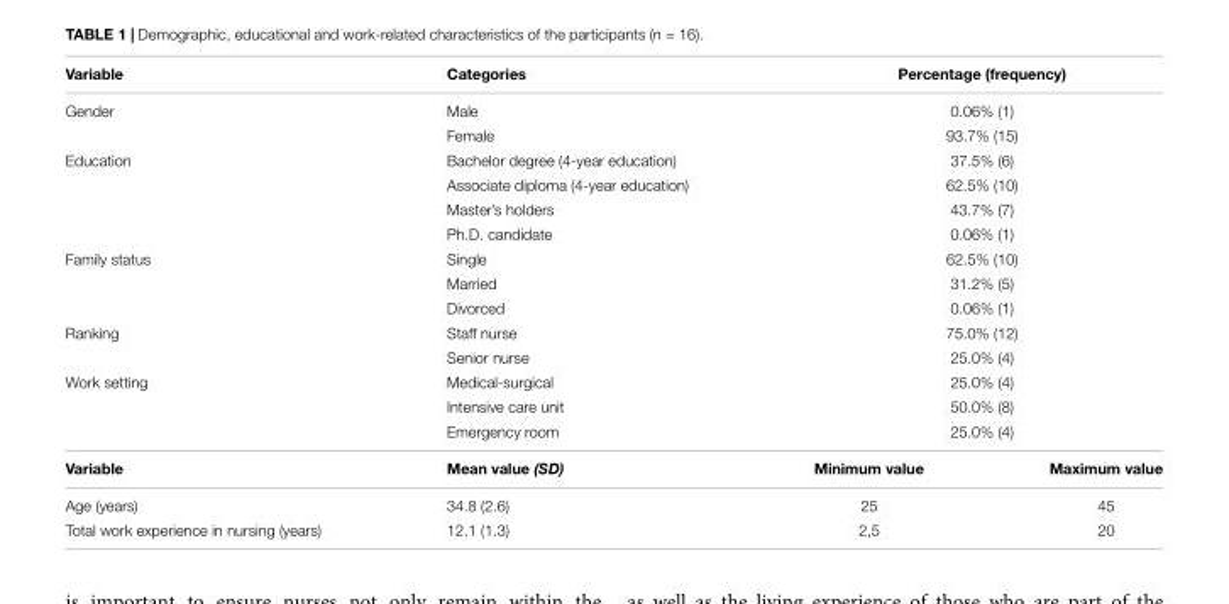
<table><thead><tr><td>Variable</td><td>Categories</td><td colspan="2">Percentage (frequency)</td></tr></thead><tbody><tr><td rowspan="2">Gender</td><td>Male</td><td colspan="2">0.06% (1)</td></tr><tr><td>Female</td><td colspan="2">93.7% (15)</td></tr><tr><td rowspan="4">Education</td><td>Bachelor degree (4-year education)</td><td colspan="2">37.5% (6)</td></tr><tr><td>Associate diploma (4-year education)</td><td colspan="2">62.5% (10)</td></tr><tr><td>Master’s holders</td><td colspan="2">43.7% (7)</td></tr><tr><td>Ph.D. candidate</td><td colspan="2">0.06% (1)</td></tr><tr><td rowspan="3">Family status</td><td>Single</td><td colspan="2">62.5% (10)</td></tr><tr><td>Married</td><td colspan="2">31.2% (5)</td></tr><tr><td>Divorced</td><td colspan="2">0.06% (1)</td></tr><tr><td rowspan="2">Ranking</td><td>Staff nurse</td><td colspan="2">75.0% (12)</td></tr><tr><td>Senior nurse</td><td colspan="2">25.0% (4)</td></tr><tr><td rowspan="3">Work setting</td><td>Medical-surgical</td><td colspan="2">25.0% (4)</td></tr><tr><td>Intensive care unit</td><td colspan="2">50.0% (8)</td></tr><tr><td>Emergency room</td><td colspan="2">25.0% (4)</td></tr><tr><td>Variable</td><td>Mean value (SD)</td><td>Minimum value</td><td>Maximum value</td></tr><tr><td>Age (years)</td><td>34.8 (2.6)</td><td>25</td><td>45</td></tr><tr><td>Total work experience in nursing (years)</td><td>12.1 (1.3)</td><td>2,5</td><td>20</td></tr></tbody></table>